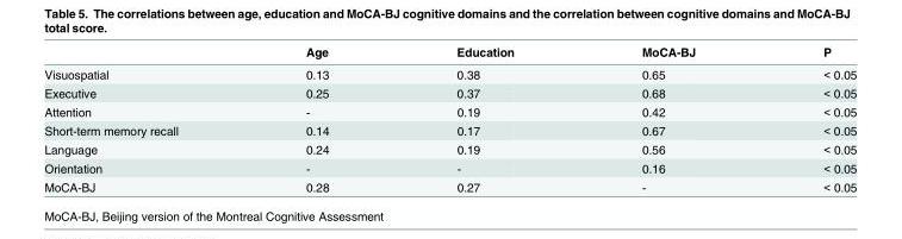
<table><thead><tr><td></td><td>Age</td><td>Education</td><td>MoCA-BJ</td><td>P</td></tr></thead><tbody><tr><td>Visuospatial</td><td>0.13</td><td>0.38</td><td>0.65</td><td>&lt; 0.05</td></tr><tr><td>Executive</td><td>0.25</td><td>0.37</td><td>0.68</td><td>&lt; 0.05</td></tr><tr><td>Attention</td><td>-</td><td>0.19</td><td>0.42</td><td>&lt; 0.05</td></tr><tr><td>Short-term memory recall</td><td>0.14</td><td>0.17</td><td>0.67</td><td>&lt; 0.05</td></tr><tr><td>Language</td><td>0.24</td><td>0.19</td><td>0.56</td><td>&lt; 0.05</td></tr><tr><td>Orientation</td><td>-</td><td>-</td><td>0.16</td><td>&lt; 0.05</td></tr><tr><td>MoCA-BJ</td><td>0.28</td><td>0.27</td><td>-</td><td>&lt; 0.05</td></tr></tbody></table>